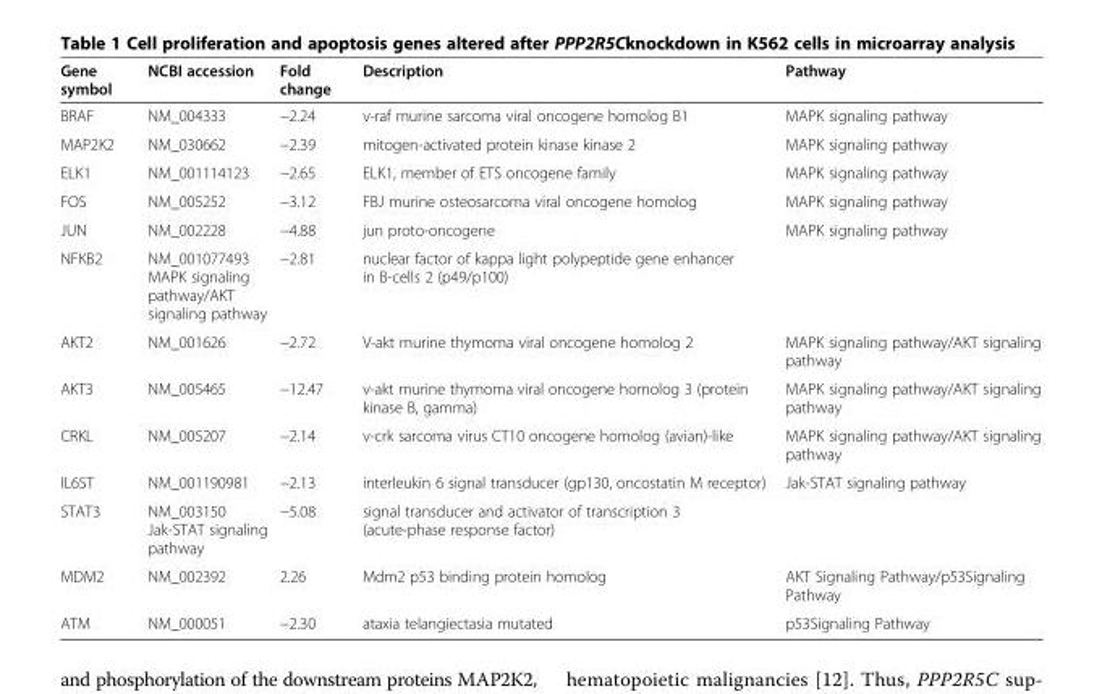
<table><thead><tr><td>Gene symbol</td><td>NCBI accession</td><td>Fold change</td><td>Description</td><td>Pathway</td></tr></thead><tbody><tr><td>BRAF</td><td>NM_004333</td><td>−2.24</td><td>v-raf murine sarcoma viral oncogene homolog B1</td><td>MAPK signaling pathway</td></tr><tr><td>MAP2K2</td><td>NM_030662</td><td>−2.39</td><td>mitogen-activated protein kinase kinase 2</td><td>MAPK signaling pathway</td></tr><tr><td>ELK1</td><td>NM_001114123</td><td>−2.65</td><td>ELK1, member of ETS oncogene family</td><td>MAPK signaling pathway</td></tr><tr><td>FOS</td><td>NM_005252</td><td>−3.12</td><td>FBJ murine osteosarcoma viral oncogene homolog</td><td>MAPK signaling pathway</td></tr><tr><td>JUN</td><td>NM_002228</td><td>−4.88</td><td>jun proto-oncogene</td><td>MAPK signaling pathway</td></tr><tr><td>NFKB2</td><td>NM_001077493 MAPK signaling pathway/AKT signaling pathway</td><td>−2.81</td><td>nuclear factor of kappa light polypeptide gene enhancer in B-cells 2 (p49/p100)</td><td></td></tr><tr><td>AKT2</td><td>NM_001626</td><td>−2.72</td><td>V-akt murine thymoma viral oncogene homolog 2</td><td>MAPK signaling pathway/AKT signaling pathway</td></tr><tr><td>AKT3</td><td>NM_005465</td><td>−12.47</td><td>v-akt murine thymoma viral oncogene homolog 3 (protein kinase B, gamma)</td><td>MAPK signaling pathway/AKT signaling pathway</td></tr><tr><td>CRKL</td><td>NM_005207</td><td>−2.14</td><td>v-crk sarcoma virus CT10 oncogene homolog (avian)-like</td><td>MAPK signaling pathway/AKT signaling pathway</td></tr><tr><td>IL6ST</td><td>NM_001190981</td><td>−2.13</td><td>interleukin 6 signal transducer (gp130, oncostatin M receptor)</td><td>Jak-STAT signaling pathway</td></tr><tr><td>STAT3</td><td>NM_003150 Jak-STAT signaling pathway</td><td>−5.08</td><td>signal transducer and activator of transcription 3 (acute-phase response factor)</td><td></td></tr><tr><td>MDM2</td><td>NM_002392</td><td>2.26</td><td>Mdm2 p53 binding protein homolog</td><td>AKT Signaling Pathway/p53Signaling Pathway</td></tr><tr><td>ATM</td><td>NM_000051</td><td>−2.30</td><td>ataxia telangiectasia mutated</td><td>p53Signaling Pathway</td></tr></tbody></table>